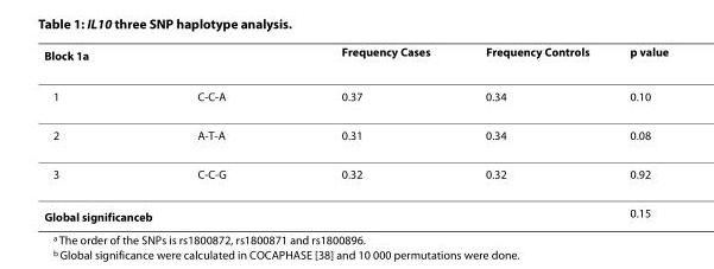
<table><thead><tr><td colspan="2">Block 1a</td><td rowspan="2">Frequency Cases 0.37</td><td rowspan="2">Frequency Controls 0.34</td><td rowspan="2">p value 0.10</td></tr><tr><td>1</td><td>C-C-A</td></tr></thead><tbody><tr><td>2</td><td>A-T-A</td><td>0.31</td><td>0.34</td><td>0.08</td></tr><tr><td>3</td><td>C-C-G</td><td>0.32</td><td>0.32</td><td>0.92</td></tr><tr><td colspan="3">Global significance<sup>b</sup></td><td></td><td>0.15</td></tr></tbody></table>